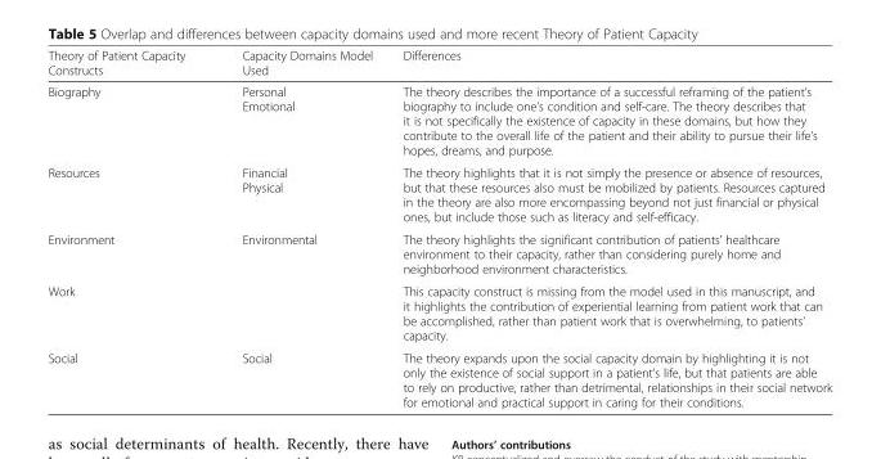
<table><thead><tr><td>Theory of Patient Capacity Constructs</td><td>Capacity Domains Model Used</td><td>Differences</td></tr></thead><tbody><tr><td>Biography</td><td>Personal Emotional</td><td>The theory describes the importance of a successful reframing of the patient’s biography to include one’s condition and self-care. The theory describes that it is not specifically the existence of capacity in these domains, but how they contribute to the overall life of the patient and their ability to pursue their life’s hopes, dreams, and purpose.</td></tr><tr><td>Resources</td><td>Financial Physical</td><td>The theory highlights that it is not simply the presence or absence of resources, but that these resources also must be mobilized by patients. Resources captured in the theory are also more encompassing beyond not just financial or physical ones, but include those such as literacy and self-efficacy.</td></tr><tr><td>Environment</td><td>Environmental</td><td>The theory highlights the significant contribution of patients’ healthcare environment to their capacity, rather than considering purely home and neighborhood environment characteristics.</td></tr><tr><td>Work</td><td></td><td>This capacity construct is missing from the model used in this manuscript, and it highlights the contribution of experiential learning from patient work that can be accomplished, rather than patient work that is overwhelming, to patients’ capacity.</td></tr><tr><td>Social</td><td>Social</td><td>The theory expands upon the social capacity domain by highlighting it is not only the existence of social support in a patient’s life, but that patients are able to rely on productive, rather than detrimental, relationships in their social network for emotional and practical support in caring for their conditions.</td></tr></tbody></table>